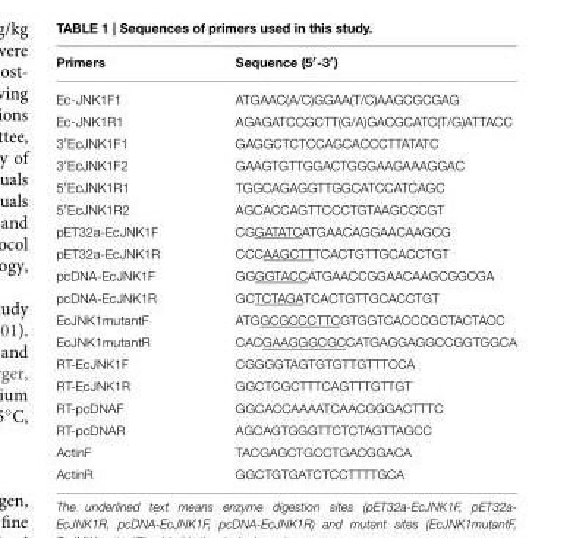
<table><thead><tr><td>Primers</td><td>Sequence (5′-3′)</td></tr></thead><tbody><tr><td>Ec-JNK1F1</td><td>ATGAAC(A/C)GGAA(T/C)AAGCGCGAG</td></tr><tr><td>Ec-JNK1R1</td><td>AGAGATCCGCTT(G/A)GACGCATC(T/G)ATTACC</td></tr><tr><td>3′EcJNK1F1</td><td>GAGGCTCTCCAGCACCCTTATATC</td></tr><tr><td>3′EcJNK1F2</td><td>GAAGTGTTGGACTGGGAAGAAAGGAC</td></tr><tr><td>5′EcJNK1R1</td><td>TGGCAGAGGTTGGCATCCATCAGC</td></tr><tr><td>5′EcJNK1R2</td><td>AGCACCAGTTCCCTGTAAGCCCGT</td></tr><tr><td>pET32a-EcJNK1F</td><td>CGGATATCATGAACAGGAACAAGCG</td></tr><tr><td>pET32a-EcJNK1R</td><td>CCCAAGCTTTCACTGTTGCACCTGT</td></tr><tr><td>pcDNA-EcJNK1F</td><td>GGGGTACCATGAACCGGAACAAGCGGCGA</td></tr><tr><td>pcDNA-EcJNK1R</td><td>GCTCTAGATCACTGTTGCACCTGT</td></tr><tr><td>EcJNK1mutantF</td><td>ATGGCGCCCTTCGTGGTCACCCGCTACTACC</td></tr><tr><td>EcJNK1mutantR</td><td>CACGAAGGGCGCCATGAGGAGGCCGGTGGCA</td></tr><tr><td>RT-EcJNK1F</td><td>CGGGGTAGTGTGTTGTTTCCA</td></tr><tr><td>RT-EcJNK1R</td><td>GGCTCGCTTTCAGTTTGTTGT</td></tr><tr><td>RT-pcDNAF</td><td>GGCACCAAAATCAACGGGACTTTC</td></tr><tr><td>RT-pcDNAR</td><td>AGCAGTGGGTTCTCTAGTTAGCC</td></tr><tr><td>ActinF</td><td>TACGAGCTGCCTGACGGACA</td></tr><tr><td>ActinR</td><td>GGCTGTGATCTCCTTTTGCA</td></tr></tbody></table>